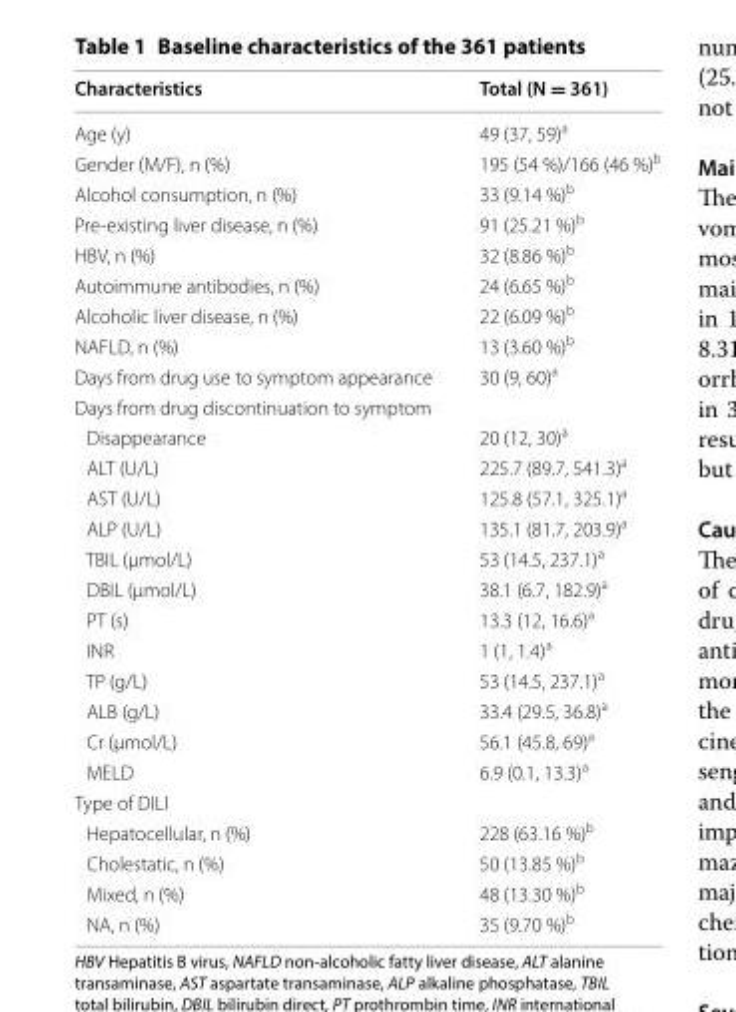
<table><thead><tr><td>Characteristics</td><td>Total (N = 361)</td></tr></thead><tbody><tr><td>Age (y)</td><td>49 (37, 59)<sup>a</sup></td></tr><tr><td>Gender (M/F), n (%)</td><td>195 (54 %)/166 (46 %)<sup>b</sup></td></tr><tr><td>Alcohol consumption, n (%)</td><td>33 (9.14 %)<sup>b</sup></td></tr><tr><td>Pre-existing liver disease, n (%)</td><td>91 (25.21 %)<sup>b</sup></td></tr><tr><td>HBV, n (%)</td><td>32 (8.86 %)<sup>b</sup></td></tr><tr><td>Autoimmune antibodies, n (%)</td><td>24 (6.65 %)<sup>b</sup></td></tr><tr><td>Alcoholic liver disease, n (%)</td><td>22 (6.09 %)<sup>b</sup></td></tr><tr><td>NAFLD, n (%)</td><td>13 (3.60 %)<sup>b</sup></td></tr><tr><td>Days from drug use to symptom appearance</td><td>30 (9, 60)<sup>a</sup></td></tr><tr><td colspan="2">Days from drug discontinuation to symptom</td></tr><tr><td>Disappearance</td><td>20 (12, 30)<sup>a</sup></td></tr><tr><td>ALT (U/L)</td><td>225.7 (89.7, 541.3)<sup>a</sup></td></tr><tr><td>AST (U/L)</td><td>125.8 (57.1, 325.1)<sup>a</sup></td></tr><tr><td>ALP (U/L)</td><td>135.1 (81.7, 203.9)<sup>a</sup></td></tr><tr><td>TBIL (μmol/L)</td><td>53 (14.5, 237.1)<sup>a</sup></td></tr><tr><td>DBIL (μmol/L)</td><td>38.1 (6.7, 182.9)<sup>a</sup></td></tr><tr><td>PT (s)</td><td>13.3 (12, 16.6)<sup>a</sup></td></tr><tr><td>INR</td><td>1 (1, 1.4)<sup>a</sup></td></tr><tr><td>TP (g/L)</td><td>53 (14.5, 237.1)<sup>a</sup></td></tr><tr><td>ALB (g/L)</td><td>33.4 (29.5, 36.8)<sup>a</sup></td></tr><tr><td>Cr (μmol/L)</td><td>56.1 (45.8, 69)<sup>a</sup></td></tr><tr><td>MELD</td><td>6.9 (0.1, 13.3)<sup>a</sup></td></tr><tr><td colspan="2">Type of DILI</td></tr><tr><td>Hepatocellular, n (%)</td><td>228 (63.16 %)<sup>b</sup></td></tr><tr><td>Cholestatic, n (%)</td><td>50 (13.85 %)<sup>b</sup></td></tr><tr><td>Mixed, n (%)</td><td>48 (13.30 %)<sup>b</sup></td></tr><tr><td>NA, n (%)</td><td>35 (9.70 %)<sup>b</sup></td></tr></tbody></table>